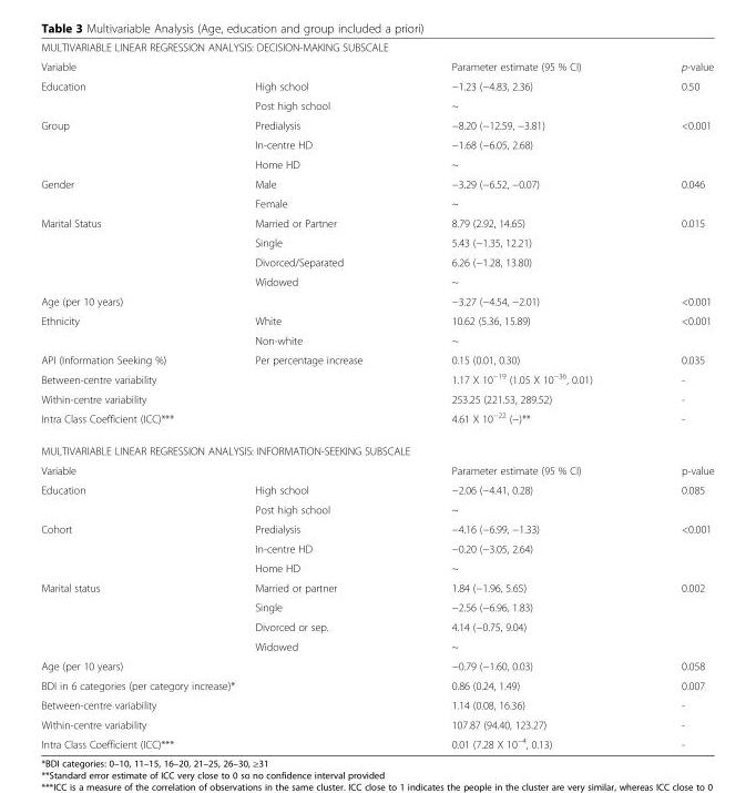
<table><tbody><tr><td colspan="4">MULTIVARIABLE LINEAR REGRESSION ANALYSIS: DECISION-MAKING SUBSCALE</td></tr><tr><td>Variable</td><td></td><td>Parameter estimate (95 % CI)</td><td>p-value</td></tr><tr><td rowspan="2">Education</td><td>High school</td><td>−1.23 (−4.83, 2.36)</td><td rowspan="2">0.50</td></tr><tr><td>Post high school</td><td>~</td></tr><tr><td rowspan="3">Group</td><td>Predialysis</td><td>−8.20 (−12.59, −3.81)</td><td rowspan="3">&lt;0.001</td></tr><tr><td>In-centre HD</td><td>−1.68 (−6.05, 2.68)</td></tr><tr><td>Home HD</td><td>~</td></tr><tr><td rowspan="2">Gender</td><td>Male</td><td>−3.29 (−6.52, −0.07)</td><td rowspan="2">0.046</td></tr><tr><td>Female</td><td>~</td></tr><tr><td rowspan="4">Marital Status</td><td>Married or Partner</td><td>8.79 (2.92, 14.65)</td><td rowspan="4">0.015</td></tr><tr><td>Single</td><td>5.43 (−1.35, 12.21)</td></tr><tr><td>Divorced/Separated</td><td>6.26 (−1.28, 13.80)</td></tr><tr><td>Widowed</td><td>~</td></tr><tr><td colspan="2">Age (per 10 years)</td><td>−3.27 (−4.54, −2.01)</td><td>&lt;0.001</td></tr><tr><td rowspan="2">Ethnicity</td><td>White</td><td>10.62 (5.36, 15.89)</td><td rowspan="2">&lt;0.001</td></tr><tr><td>Non-white</td><td>~</td></tr><tr><td>API (Information Seeking %)</td><td>Per percentage increase</td><td>0.15 (0.01, 0.30)</td><td>0.035</td></tr><tr><td colspan="2">Between-centre variability</td><td>1.17 X 10<sup>−19</sup> (1.05 X 10<sup>−36</sup>, 0.01)</td><td>-</td></tr><tr><td colspan="2">Within-centre variability</td><td>253.25 (221.53, 289.52)</td><td>-</td></tr><tr><td colspan="2">Intra Class Coefficient (ICC)***</td><td>4.61 X 10<sup>−22</sup> (−)**</td><td>-</td></tr><tr><td colspan="4">MULTIVARIABLE LINEAR REGRESSION ANALYSIS: INFORMATION-SEEKING SUBSCALE</td></tr><tr><td>Variable</td><td></td><td>Parameter estimate (95 % CI)</td><td>p-value</td></tr><tr><td rowspan="2">Education</td><td>High school</td><td>−2.06 (−4.41, 0.28)</td><td rowspan="2">0.085</td></tr><tr><td>Post high school</td><td>~</td></tr><tr><td rowspan="3">Cohort</td><td>Predialysis</td><td>−4.16 (−6.99, −1.33)</td><td rowspan="3">&lt;0.001</td></tr><tr><td>In-centre HD</td><td>−0.20 (−3.05, 2.64)</td></tr><tr><td>Home HD</td><td>~</td></tr><tr><td rowspan="4">Marital status</td><td>Married or partner</td><td>1.84 (−1.96, 5.65)</td><td rowspan="4">0.002</td></tr><tr><td>Single</td><td>−2.56 (−6.96, 1.83)</td></tr><tr><td>Divorced or sep.</td><td>4.14 (−0.75, 9.04)</td></tr><tr><td>Widowed</td><td>~</td></tr><tr><td colspan="2">Age (per 10 years)</td><td>−0.79 (−1.60, 0.03)</td><td>0.058</td></tr><tr><td colspan="2">BDI in 6 categories (per category increase)*</td><td>0.86 (0.24, 1.49)</td><td>0.007</td></tr><tr><td colspan="2">Between-centre variability</td><td>1.14 (0.08, 16.36)</td><td>-</td></tr><tr><td colspan="2">Within-centre variability</td><td>107.87 (94.40, 123.27)</td><td>-</td></tr><tr><td colspan="2">Intra Class Coefficient (ICC)***</td><td>0.01 (7.28 X 10<sup>−4</sup>, 0.13)</td><td>-</td></tr></tbody></table>